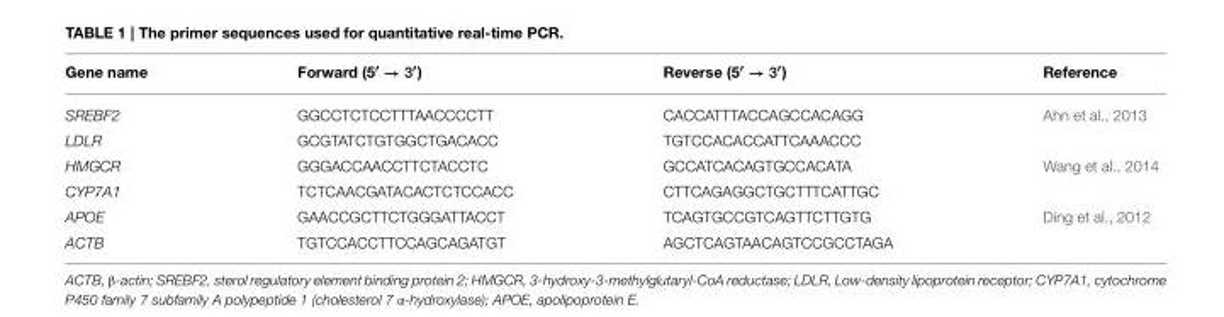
<table><thead><tr><td>Gene name</td><td>Forward (5<sup>′</sup> → 3<sup>′</sup>)</td><td>Reverse (5<sup>′</sup> → 3<sup>′</sup>)</td><td>Reference</td></tr></thead><tbody><tr><td>SREBF2</td><td>GGCCTCTCCTTTAACCCCTT</td><td>CACCATTTACCAGCCACAGG</td><td>Ahn et al., 2013</td></tr><tr><td>LDLR</td><td>GCGTATCTGTGGCTGACACC</td><td>TGTCCACACCATTCAAACCC</td><td></td></tr><tr><td>HMGCR</td><td>GGGACCAACCTTCTACCTC</td><td>GCCATCACAGTGCCACATA</td><td>Wang et al., 2014</td></tr><tr><td>CYP7A1</td><td>TCTCAACGATACACTCTCCACC</td><td>CTTCAGAGGCTGCTTTCATTGC</td><td></td></tr><tr><td>APOE</td><td>GAACCGCTTCTGGGATTACCT</td><td>TCAGTGCCGTCAGTTCTTGTG</td><td>Ding et al., 2012</td></tr><tr><td>ACTB</td><td>TGTCCACCTTCCAGCAGATGT</td><td>AGCTCAGTAACAGTCCGCCTAGA</td><td></td></tr></tbody></table>